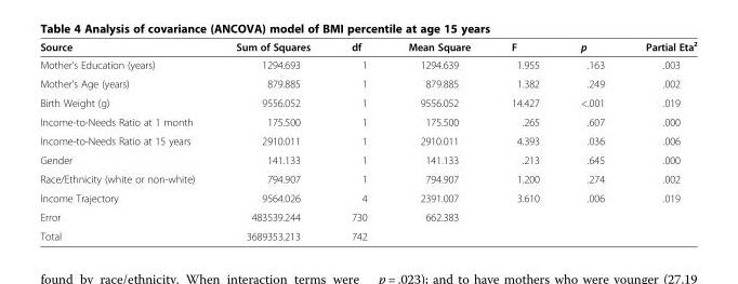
<table><thead><tr><td>Source</td><td>Sum of Squares</td><td>df</td><td>Mean Square</td><td>F</td><td>p</td><td>Partial Eta²</td></tr></thead><tbody><tr><td>Mother’s Education (years)</td><td>1294.693</td><td>1</td><td>1294.639</td><td>1.955</td><td>.163</td><td>.003</td></tr><tr><td>Mother’s Age (years)</td><td>879.885</td><td>1</td><td>879.885</td><td>1.382</td><td>.249</td><td>.002</td></tr><tr><td>Birth Weight (g)</td><td>9556.052</td><td>1</td><td>9556.052</td><td>14.427</td><td>&lt;.001</td><td>.019</td></tr><tr><td>Income-to-Needs Ratio at 1 month</td><td>175.500</td><td>1</td><td>175.500</td><td>.265</td><td>.607</td><td>.000</td></tr><tr><td>Income-to-Needs Ratio at 15 years</td><td>2910.011</td><td>1</td><td>2910.011</td><td>4.393</td><td>.036</td><td>.006</td></tr><tr><td>Gender</td><td>141.133</td><td>1</td><td>141.133</td><td>.213</td><td>.645</td><td>.000</td></tr><tr><td>Race/Ethnicity (white or non-white)</td><td>794.907</td><td>1</td><td>794.907</td><td>1.200</td><td>.274</td><td>.002</td></tr><tr><td>Income Trajectory</td><td>9564.026</td><td>4</td><td>2391.007</td><td>3.610</td><td>.006</td><td>.019</td></tr><tr><td>Error</td><td>483539.244</td><td>730</td><td>662.383</td><td></td><td></td><td></td></tr><tr><td>Total</td><td>3689353.213</td><td>742</td><td></td><td></td><td></td><td></td></tr></tbody></table>